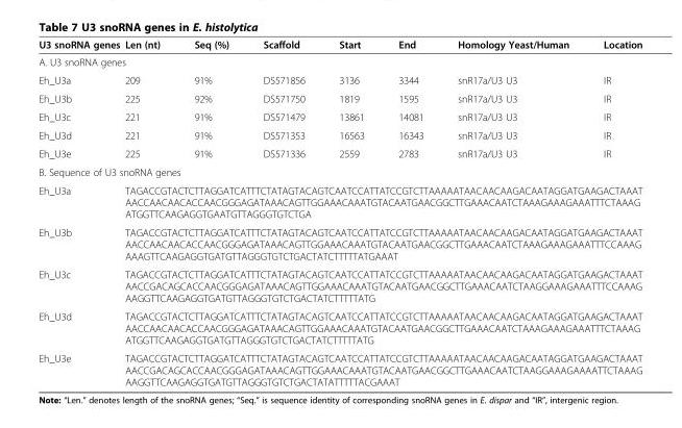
<table><thead><tr><td>U3 snoRNA genes</td><td>Len (nt)</td><td>Seq (%)</td><td>Scaffold</td><td>Start</td><td>End</td><td>Homology Yeast/Human</td><td>Location</td></tr></thead><tbody><tr><td colspan="8">A. U3 snoRNA genes</td></tr><tr><td>Eh_U3a</td><td>209</td><td>91%</td><td>DS571856</td><td>3136</td><td>3344</td><td>snR17a/U3 U3</td><td>IR</td></tr><tr><td>Eh_U3b</td><td>225</td><td>92%</td><td>DS571750</td><td>1819</td><td>1595</td><td>snR17a/U3 U3</td><td>IR</td></tr><tr><td>Eh_U3c</td><td>221</td><td>91%</td><td>DS571479</td><td>13861</td><td>14081</td><td>snR17a/U3 U3</td><td>IR</td></tr><tr><td>Eh_U3d</td><td>221</td><td>91%</td><td>DS571353</td><td>16563</td><td>16343</td><td>snR17a/U3 U3</td><td>IR</td></tr><tr><td>Eh_U3e</td><td>225</td><td>91%</td><td>DS571336</td><td>2559</td><td>2783</td><td>snR17a/U3 U3</td><td>IR</td></tr><tr><td colspan="8">B. Sequence of U3 snoRNA genes</td></tr><tr><td>Eh_U3a</td><td colspan="7">TAGACCGTACTCTTAGGATCATTTCTATAGTACAGTCAATCCATTATCCGTCTTAAAAATAACAACAAGACAATAGGATGAAGACTAAAT AACCAACAACACCAACGGGAGATAAACAGTTGGAAACAAATGTACAATGAACGGCTTGAAACAATCTAAAGAAAGAAATTTCTAAAG ATGGTTCAAGAGGTGAATGTTAGGGTGTCTGA</td></tr><tr><td>Eh_U3b</td><td colspan="7">TAGACCGTACTCTTAGGATCATTTCTATAGTACAGTCAATCCATTATCCGTCTTAAAAATAACAACAAGACAATAGGATGAAGACTAAAT AACCAACAACACCAACGGGAGATAAACAGTTGGAAACAAATGTACAATGAACGGCTTGAAACAATCTAAAGAAAGAAATTTCCAAAG AAAGTTCAAGAGGTGATGTTAGGGTGTCTGACTATCTTTTTATGAAAT</td></tr><tr><td>Eh_U3c</td><td colspan="7">TAGACCGTACTCTTAGGATCATTTCTATAGTACAGTCAATCCATTATCCGTCTTAAAAATAACAACAAGACAATAGGATGAAGACTAAAT AACCGACAGCACCAACGGGAGATAAACAGTTGGAAACAAATGTACAATGAACGGCTTGAAACAATCTAAGGAAAGAAATTTCCAAAG AAGGTTCAAGAGGTGATGTTAGGGTGTCTGACTATCTTTTTATG</td></tr><tr><td>Eh_U3d</td><td colspan="7">TAGACCGTACTCTTAGGATCATTTCTATAGTACAGTCAATCCATTATCCGTCTTAAAAATAACAACAAGACAATAGGATGAAGACTAAAT AACCAACAACACCAACGGGAGATAAACAGTTGGAAACAAATGTACAATGAACGGCTTGAAACAATCTAAAGAAAGAAATTTCTAAAG ATGGTTCAAGAGGTGATGTTAGGGTGTCTGACTATCTTTTTATG</td></tr><tr><td>Eh_U3e</td><td colspan="7">TAGACCGTACTCTTAGGATCATTTCTATAGTACAGTCAATCCATTATCCGTCTTAAAAATAACAACAAGACAATAGGATGAAGACTAAAT AACCGACAGCACCAACGGGAGATAAACAGTTGGAAACAAATGTACAATGAACGGCTTGAAACAATCTAAGGAAAGAAAATTCTAAAG AAGGTTCAAGAGGTGATGTTAGGGTGTCTGACTATATTTTTACGAAAT</td></tr></tbody></table>